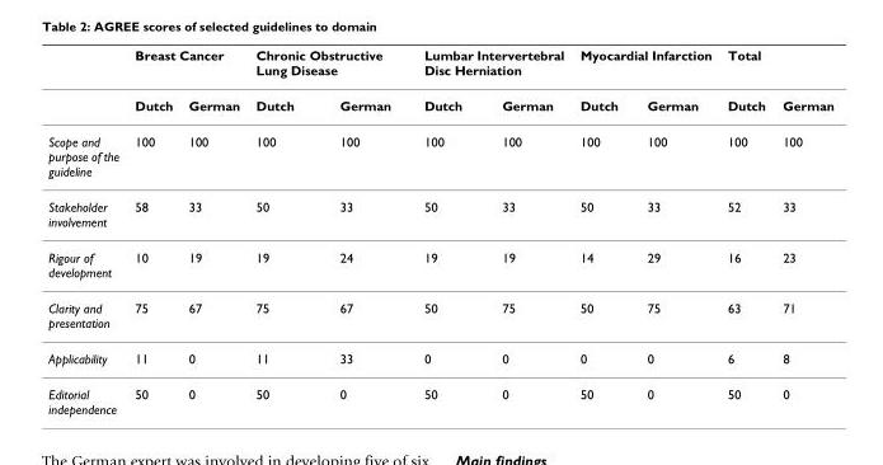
<table><thead><tr><td rowspan="2"></td><td colspan="2">Breast Cancer</td><td colspan="2">Chronic Obstructive Lung Disease</td><td colspan="2">Lumbar Intervertebral Disc Herniation</td><td colspan="2">Myocardial Infarction</td><td colspan="2">Total</td></tr><tr><td>Dutch</td><td>German</td><td>Dutch</td><td>German</td><td>Dutch</td><td>German</td><td>Dutch</td><td>German</td><td>Dutch</td><td>German</td></tr></thead><tbody><tr><td>Scope and purpose of the guideline</td><td>100</td><td>100</td><td>100</td><td>100</td><td>100</td><td>100</td><td>100</td><td>100</td><td>100</td><td>100</td></tr><tr><td>Stakeholder involvement</td><td>58</td><td>33</td><td>50</td><td>33</td><td>50</td><td>33</td><td>50</td><td>33</td><td>52</td><td>33</td></tr><tr><td>Rigour of development</td><td>10</td><td>19</td><td>19</td><td>24</td><td>19</td><td>19</td><td>14</td><td>29</td><td>16</td><td>23</td></tr><tr><td>Clarity and presentation</td><td>75</td><td>67</td><td>75</td><td>67</td><td>50</td><td>75</td><td>50</td><td>75</td><td>63</td><td>71</td></tr><tr><td>Applicability</td><td>11</td><td>0</td><td>11</td><td>33</td><td>0</td><td>0</td><td>0</td><td>0</td><td>6</td><td>8</td></tr><tr><td>Editorial independence</td><td>50</td><td>0</td><td>50</td><td>0</td><td>50</td><td>0</td><td>50</td><td>0</td><td>50</td><td>0</td></tr></tbody></table>